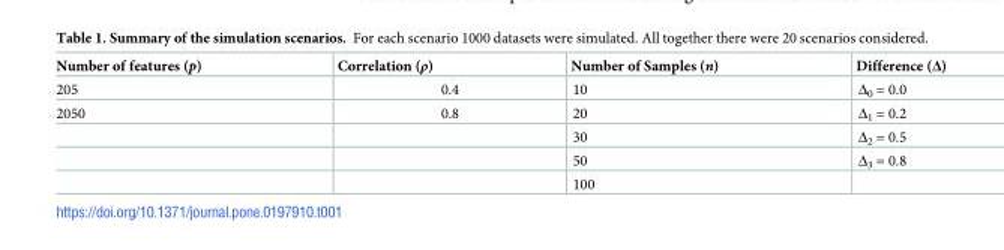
<table><thead><tr><td>Number of features (p)</td><td>Correlation (ρ)</td><td>Number of Samples (n)</td><td>Difference (Δ)</td></tr></thead><tbody><tr><td>205</td><td>0.4</td><td>10</td><td>Δ<sub>0</sub> = 0.0</td></tr><tr><td rowspan="4">2050</td><td>0.8</td><td>20</td><td>Δ<sub>1</sub> = 0.2</td></tr><tr><td></td><td>30</td><td>Δ<sub>2</sub> = 0.5</td></tr><tr><td></td><td>50</td><td>Δ<sub>3</sub> = 0.8</td></tr><tr><td></td><td>100</td><td></td></tr></tbody></table>